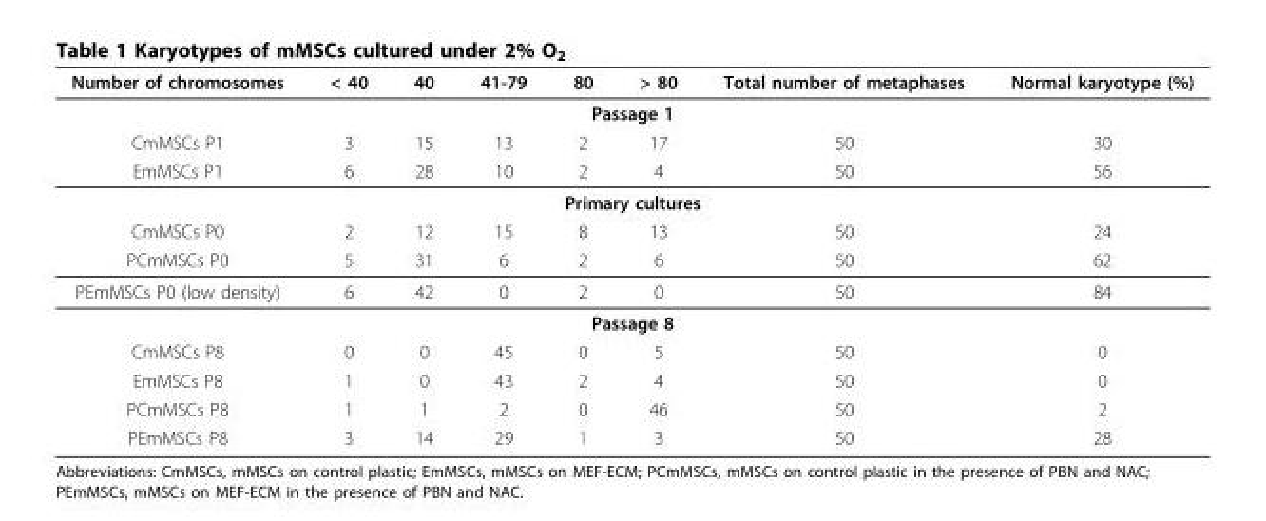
<table><thead><tr><td>Number of chromosomes</td><td>&lt; 40</td><td>40</td><td>41-79</td><td>80</td><td>&gt; 80</td><td>Total number of metaphases</td><td>Normal karyotype (%)</td></tr></thead><tbody><tr><td colspan="8">Passage 1</td></tr><tr><td>CmMSCs P1</td><td>3</td><td>15</td><td>13</td><td>2</td><td>17</td><td>50</td><td>30</td></tr><tr><td>EmMSCs P1</td><td>6</td><td>28</td><td>10</td><td>2</td><td>4</td><td>50</td><td>56</td></tr><tr><td colspan="8">Primary cultures</td></tr><tr><td>CmMSCs P0</td><td>2</td><td>12</td><td>15</td><td>8</td><td>13</td><td>50</td><td>24</td></tr><tr><td>PCmMSCs P0</td><td>5</td><td>31</td><td>6</td><td>2</td><td>6</td><td>50</td><td>62</td></tr><tr><td>PEmMSCs P0 (low density)</td><td>6</td><td>42</td><td>0</td><td>2</td><td>0</td><td>50</td><td>84</td></tr><tr><td colspan="8">Passage 8</td></tr><tr><td>CmMSCs P8</td><td>0</td><td>0</td><td>45</td><td>0</td><td>5</td><td>50</td><td>0</td></tr><tr><td>EmMSCs P8</td><td>1</td><td>0</td><td>43</td><td>2</td><td>4</td><td>50</td><td>0</td></tr><tr><td>PCmMSCs P8</td><td>1</td><td>1</td><td>2</td><td>0</td><td>46</td><td>50</td><td>2</td></tr><tr><td>PEmMSCs P8</td><td>3</td><td>14</td><td>29</td><td>1</td><td>3</td><td>50</td><td>28</td></tr></tbody></table>